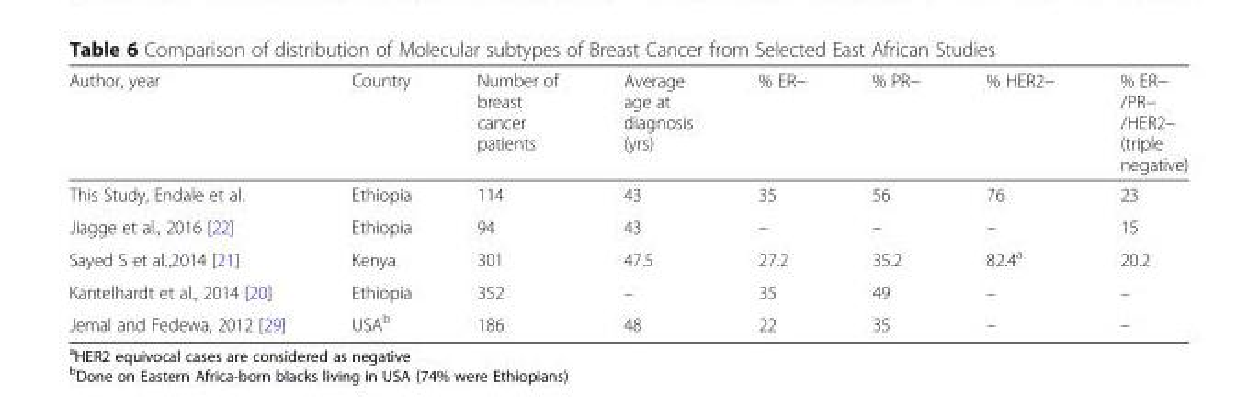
<table><thead><tr><td>Author, year</td><td>Country</td><td>Number of breast cancer patients</td><td>Average age at diagnosis (yrs)</td><td>% ER−</td><td>% PR−</td><td>% HER2−</td><td>% ER− /PR− /HER2− (triple negative)</td></tr></thead><tbody><tr><td>This Study, Endale et al.</td><td>Ethiopia</td><td>114</td><td>43</td><td>35</td><td>56</td><td>76</td><td>23</td></tr><tr><td>Jiagge et al., 2016 [22]</td><td>Ethiopia</td><td>94</td><td>43</td><td>–</td><td>–</td><td>–</td><td>15</td></tr><tr><td>Sayed S et al.,2014 [21]</td><td>Kenya</td><td>301</td><td>47.5</td><td>27.2</td><td>35.2</td><td>82.4<sup>a</sup></td><td>20.2</td></tr><tr><td>Kantelhardt et al., 2014 [20]</td><td>Ethiopia</td><td>352</td><td>–</td><td>35</td><td>49</td><td>–</td><td>–</td></tr><tr><td>Jemal and Fedewa, 2012 [29]</td><td>USA<sup>b</sup></td><td>186</td><td>48</td><td>22</td><td>35</td><td>–</td><td>–</td></tr></tbody></table>